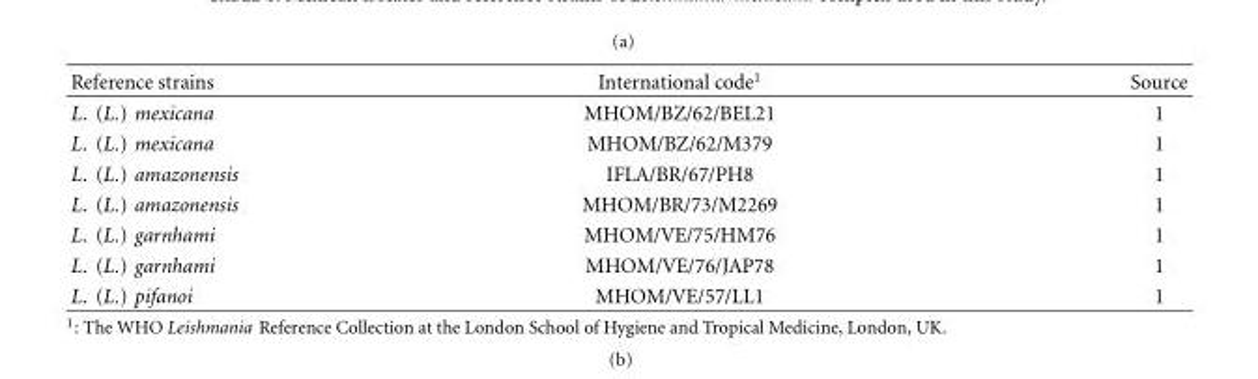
<table><thead><tr><td>Reference strains</td><td>International code<sup>1</sup></td><td>Source</td></tr></thead><tbody><tr><td>L. (L.) mexicana</td><td>MHOM/BZ/62/BEL21</td><td>1</td></tr><tr><td>L. (L.) mexicana</td><td>MHOM/BZ/62/M379</td><td>1</td></tr><tr><td>L. (L.) amazonensis</td><td>IFLA/BR/67/PH8</td><td>1</td></tr><tr><td>L. (L.) amazonensis</td><td>MHOM/BR/73/M2269</td><td>1</td></tr><tr><td>L. (L.) garnhami</td><td>MHOM/VE/75/HM76</td><td>1</td></tr><tr><td>L. (L.) garnhami</td><td>MHOM/VE/76/JAP78</td><td>1</td></tr><tr><td>L. (L.) pifanoi</td><td>MHOM/VE/57/LL1</td><td>1</td></tr></tbody></table>